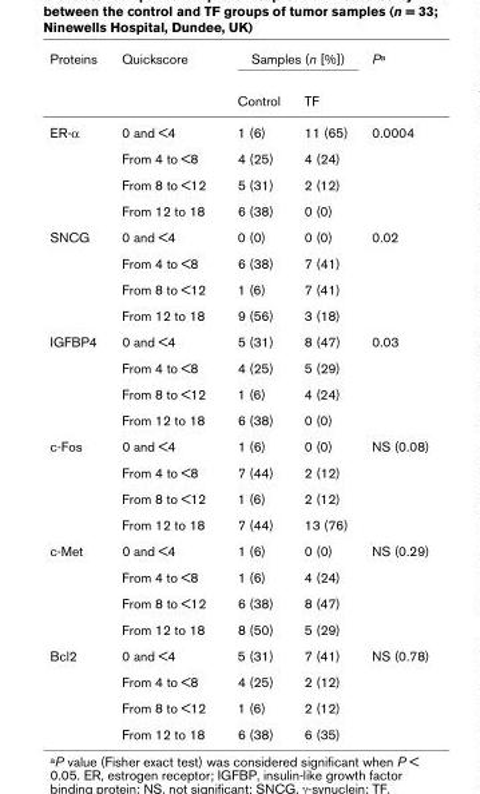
<table><thead><tr><td rowspan="2">Proteins</td><td rowspan="2">Quickscore</td><td colspan="2">Samples (n [%])</td><td rowspan="2">P<sup>a</sup></td></tr><tr><td>Control</td><td>TF</td></tr></thead><tbody><tr><td rowspan="4">ER-α</td><td>0 and &lt;4</td><td>1 (6)</td><td>11 (65)</td><td>0.0004</td></tr><tr><td>From 4 to &lt;8</td><td>4 (25)</td><td>4 (24)</td><td></td></tr><tr><td>From 8 to &lt;12</td><td>5 (31)</td><td>2 (12)</td><td></td></tr><tr><td>From 12 to 18</td><td>6 (38)</td><td>0 (0)</td><td></td></tr><tr><td rowspan="4">SNCG</td><td>0 and &lt;4</td><td>0 (0)</td><td>0 (0)</td><td>0.02</td></tr><tr><td>From 4 to &lt;8</td><td>6 (38)</td><td>7 (41)</td><td></td></tr><tr><td>From 8 to &lt;12</td><td>1 (6)</td><td>7 (41)</td><td></td></tr><tr><td>From 12 to 18</td><td>9 (56)</td><td>3 (18)</td><td></td></tr><tr><td rowspan="4">IGFBP4</td><td>0 and &lt;4</td><td>5 (31)</td><td>8 (47)</td><td>0.03</td></tr><tr><td>From 4 to &lt;8</td><td>4 (25)</td><td>5 (29)</td><td></td></tr><tr><td>From 8 to &lt;12</td><td>1 (6)</td><td>4 (24)</td><td></td></tr><tr><td>From 12 to 18</td><td>6 (38)</td><td>0 (0)</td><td></td></tr><tr><td rowspan="4">c-Fos</td><td>0 and &lt;4</td><td>1 (6)</td><td>0 (0)</td><td>NS (0.08)</td></tr><tr><td>From 4 to &lt;8</td><td>7 (44)</td><td>2 (12)</td><td></td></tr><tr><td>From 8 to &lt;12</td><td>1 (6)</td><td>2 (12)</td><td></td></tr><tr><td>From 12 to 18</td><td>7 (44)</td><td>13 (76)</td><td></td></tr><tr><td rowspan="4">c-Met</td><td>0 and &lt;4</td><td>1 (6)</td><td>0 (0)</td><td>NS (0.29)</td></tr><tr><td>From 4 to &lt;8</td><td>1 (6)</td><td>4 (24)</td><td></td></tr><tr><td>From 8 to &lt;12</td><td>6 (38)</td><td>8 (47)</td><td></td></tr><tr><td>From 12 to 18</td><td>8 (50)</td><td>5 (29)</td><td></td></tr><tr><td rowspan="4">Bcl2</td><td>0 and &lt;4</td><td>5 (31)</td><td>7 (41)</td><td>NS (0.78)</td></tr><tr><td>From 4 to &lt;8</td><td>4 (25)</td><td>2 (12)</td><td></td></tr><tr><td>From 8 to &lt;12</td><td>1 (6)</td><td>2 (12)</td><td></td></tr><tr><td>From 12 to 18</td><td>6 (38)</td><td>6 (35)</td><td></td></tr></tbody></table>